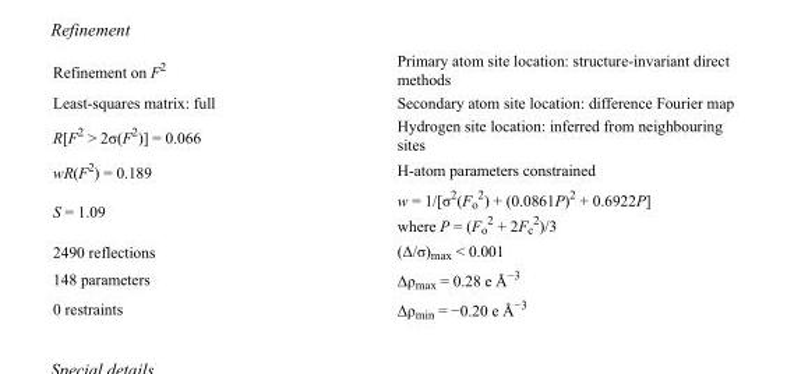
<table><tbody><tr><td>Refinement on F<sup>2</sup></td><td>Primary atom site location: structure-invariant direct methods</td></tr><tr><td>Least-squares matrix: full</td><td>Secondary atom site location: difference Fourier map</td></tr><tr><td>R[F<sup>2</sup> &gt; 2σ(F<sup>2</sup>)] = 0.066</td><td>Hydrogen site location: inferred from neighbouring sites</td></tr><tr><td>wR(F<sup>2</sup>) = 0.189</td><td>H-atom parameters constrained</td></tr><tr><td>S = 1.09</td><td>w = 1/[σ<sup>2</sup>(F<sub>o</sub> <sup>2</sup>) + (0.0861P)<sup>2</sup> + 0.6922P] where P = (F<sub>o</sub> <sup>2</sup> + 2F<sub>c</sub> <sup>2</sup>)/3</td></tr><tr><td>2490 reflections</td><td>(Δ/σ)<sub>max</sub> &lt; 0.001</td></tr><tr><td>148 parameters</td><td>Δρ<sub>max</sub> = 0.28 e Å<sup>−3</sup></td></tr><tr><td>0 restraints</td><td>Δρ<sub>min</sub> = −0.20 e Å<sup>−3</sup></td></tr></tbody></table>